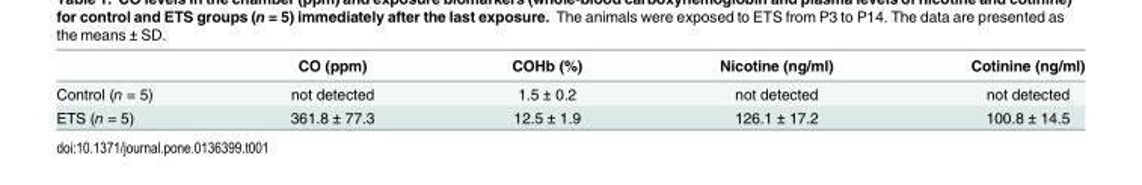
<table><thead><tr><td></td><td>CO (ppm)</td><td>COHb (%)</td><td>Nicotine (ng/ml)</td><td>Cotinine (ng/ml)</td></tr></thead><tbody><tr><td>Control (n = 5)</td><td>not detected</td><td>1.5 ± 0.2</td><td>not detected</td><td>not detected</td></tr><tr><td>ETS (n = 5)</td><td>361.8 ± 77.3</td><td>12.5 ± 1.9</td><td>126.1 ± 17.2</td><td>100.8 ± 14.5</td></tr></tbody></table>